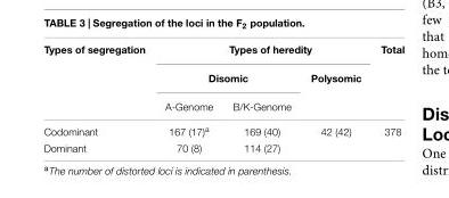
<table><thead><tr><td rowspan="3">Types of segregation</td><td colspan="3">Types of heredity</td><td rowspan="3">Total</td></tr><tr><td colspan="2">Disomic</td><td rowspan="2">Polysomic</td></tr><tr><td>A-Genome</td><td>B/K-Genome</td></tr></thead><tbody><tr><td>Codominant</td><td>167 (17)<sup>a</sup></td><td>169 (40)</td><td>42 (42)</td><td>378</td></tr><tr><td>Dominant</td><td>70 (8)</td><td>114 (27)</td><td></td><td></td></tr></tbody></table>